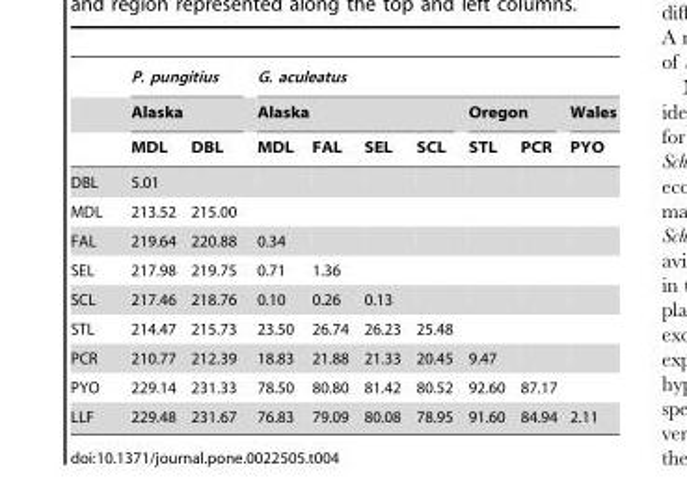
<table><thead><tr><td rowspan="3"></td><td rowspan="2" colspan="2">P. pungitius Alaska</td><td colspan="7">G. aculeatus</td></tr><tr><td colspan="4">Alaska</td><td colspan="2">Oregon</td><td rowspan="2">Wales PYO</td></tr><tr><td>MDL</td><td>DBL</td><td>MDL</td><td>FAL</td><td>SEL</td><td>SCL</td><td>STL</td><td>PCR</td></tr></thead><tbody><tr><td>DBL</td><td>5.01</td><td></td><td></td><td></td><td></td><td></td><td></td><td></td><td></td></tr><tr><td>MDL</td><td>213.52</td><td>215.00</td><td></td><td></td><td></td><td></td><td></td><td></td><td></td></tr><tr><td>FAL</td><td>219.64</td><td>220.88</td><td>0.34</td><td></td><td></td><td></td><td></td><td></td><td></td></tr><tr><td>SEL</td><td>217.98</td><td>219.75</td><td>0.71</td><td>1.36</td><td></td><td></td><td></td><td></td><td></td></tr><tr><td>SCL</td><td>217.46</td><td>218.76</td><td>0.10</td><td>0.26</td><td>0.13</td><td></td><td></td><td></td><td></td></tr><tr><td>STL</td><td>214.47</td><td>215.73</td><td>23.50</td><td>26.74</td><td>26.23</td><td>25.48</td><td></td><td></td><td></td></tr><tr><td>PCR</td><td>210.77</td><td>212.39</td><td>18.83</td><td>21.88</td><td>21.33</td><td>20.45</td><td>9.47</td><td></td><td></td></tr><tr><td>PYO</td><td>229.14</td><td>231.33</td><td>78.50</td><td>80.80</td><td>81.42</td><td>80.52</td><td>92.60</td><td>87.17</td><td></td></tr><tr><td>LLF</td><td>229.48</td><td>231.67</td><td>76.83</td><td>79.09</td><td>80.08</td><td>78.95</td><td>91.60</td><td>84.94</td><td>2.11</td></tr></tbody></table>